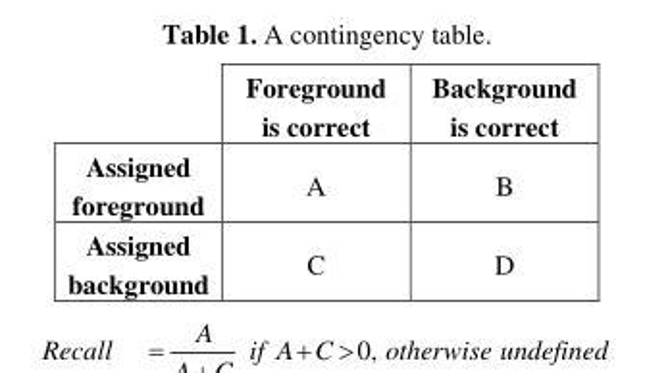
<table><thead><tr><td></td><td>Foreground is correct</td><td>Background is correct</td></tr></thead><tbody><tr><td>Assigned foreground</td><td>A</td><td>B</td></tr><tr><td>Assigned background</td><td>C</td><td>D</td></tr></tbody></table>